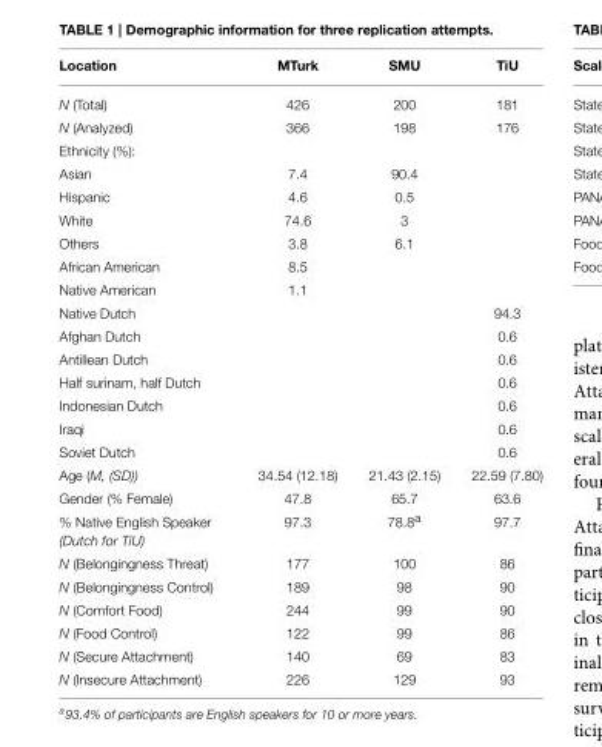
<table><thead><tr><td>Location</td><td>MTurk</td><td>SMU</td><td>TiU</td></tr></thead><tbody><tr><td>N (Total)</td><td>426</td><td>200</td><td>181</td></tr><tr><td>N (Analyzed)</td><td>366</td><td>198</td><td>176</td></tr><tr><td colspan="4">Ethnicity (%):</td></tr><tr><td>Asian</td><td>7.4</td><td>90.4</td><td></td></tr><tr><td>Hispanic</td><td>4.6</td><td>0.5</td><td></td></tr><tr><td>White</td><td>74.6</td><td>3</td><td></td></tr><tr><td>Others</td><td>3.8</td><td>6.1</td><td></td></tr><tr><td>African American</td><td>8.5</td><td></td><td></td></tr><tr><td>Native American</td><td>1.1</td><td></td><td></td></tr><tr><td>Native Dutch</td><td></td><td></td><td>94.3</td></tr><tr><td>Afghan Dutch</td><td></td><td></td><td>0.6</td></tr><tr><td>Antillean Dutch</td><td></td><td></td><td>0.6</td></tr><tr><td>Half surinam, half Dutch</td><td></td><td></td><td>0.6</td></tr><tr><td>Indonesian Dutch</td><td></td><td></td><td>0.6</td></tr><tr><td>Iraqi</td><td></td><td></td><td>0.6</td></tr><tr><td>Soviet Dutch</td><td></td><td></td><td>0.6</td></tr><tr><td>Age (M, (SD))</td><td>34.54 (12.18)</td><td>21.43 (2.15)</td><td>22.59 (7.80)</td></tr><tr><td>Gender (% Female)</td><td>47.8</td><td>65.7</td><td>63.6</td></tr><tr><td>% Native English Speaker (Dutch for TiU)</td><td>97.3</td><td>78.8<sup>a</sup></td><td>97.7</td></tr><tr><td>N (Belongingness Threat)</td><td>177</td><td>100</td><td>86</td></tr><tr><td>N (Belongingness Control)</td><td>189</td><td>98</td><td>90</td></tr><tr><td>N (Comfort Food)</td><td>244</td><td>99</td><td>90</td></tr><tr><td>N (Food Control)</td><td>122</td><td>99</td><td>86</td></tr><tr><td>N (Secure Attachment)</td><td>140</td><td>69</td><td>83</td></tr><tr><td>N (Insecure Attachment)</td><td>226</td><td>129</td><td>93</td></tr></tbody></table>